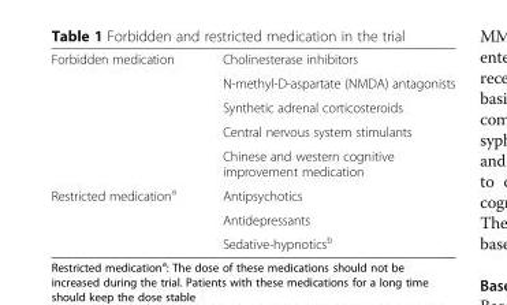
<table><tbody><tr><td rowspan="5">Forbidden medication</td><td>Cholinesterase inhibitors</td></tr><tr><td>N-methyl-D-aspartate (NMDA) antagonists</td></tr><tr><td>Synthetic adrenal corticosteroids</td></tr><tr><td>Central nervous system stimulants</td></tr><tr><td>Chinese and western cognitive improvement medication</td></tr><tr><td rowspan="3">Restricted medication<sup>a</sup></td><td>Antipsychotics</td></tr><tr><td>Antidepressants</td></tr><tr><td>Sedative-hypnotics<sup>b</sup></td></tr></tbody></table>